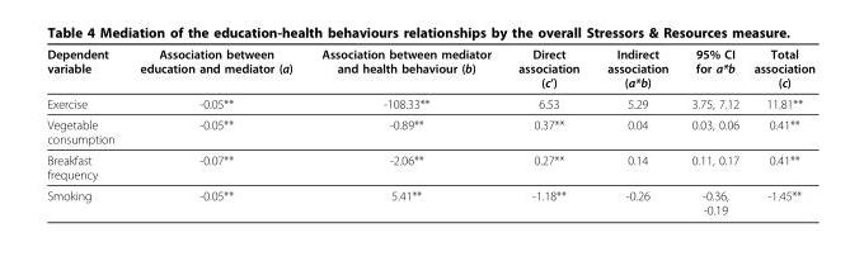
<table><thead><tr><td>Dependent variable</td><td>Association between education and mediator (a)</td><td>Association between mediator and health behaviour (b)</td><td>Direct association (c’)</td><td>Indirect association (a*b)</td><td>95% CI for a*b</td><td>Total association (c)</td></tr></thead><tbody><tr><td>Exercise</td><td>-0.05**</td><td>-108.33**</td><td>6.53</td><td>5.29</td><td>3.75, 7.12</td><td>11.81**</td></tr><tr><td>Vegetable consumption</td><td>-0.05**</td><td>-0.89**</td><td>0.37**</td><td>0.04</td><td>0.03, 0.06</td><td>0.41**</td></tr><tr><td>Breakfast frequency</td><td>-0.07**</td><td>-2.06**</td><td>0.27**</td><td>0.14</td><td>0.11, 0.17</td><td>0.41**</td></tr><tr><td>Smoking</td><td>-0.05**</td><td>5.41**</td><td>-1.18**</td><td>-0.26</td><td>-0.36, -0.19</td><td>-1.45**</td></tr></tbody></table>